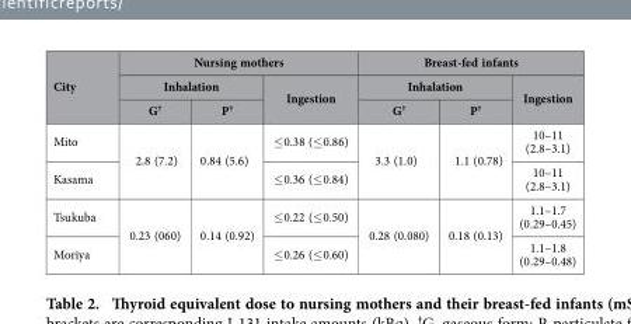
<table><thead><tr><td rowspan="3">City</td><td colspan="3">Nursing mothers</td><td colspan="3">Breast-fed infants</td></tr><tr><td colspan="2">Inhalation</td><td rowspan="2">Ingestion</td><td colspan="2">Inhalation</td><td rowspan="2">Ingestion</td></tr><tr><td>G†</td><td>P†</td><td>G†</td><td>P†</td></tr></thead><tbody><tr><td>Mito</td><td rowspan="2">2.8 (7.2)</td><td rowspan="2">0.84 (5.6)</td><td>≤ 0.38 (≤ 0.86)</td><td rowspan="2">3.3 (1.0)</td><td rowspan="2">1.1 (0.78)</td><td>10–11 (2.8–3.1)</td></tr><tr><td>Kasama</td><td>≤ 0.36 (≤ 0.84)</td><td>10–11 (2.8–3.1)</td></tr><tr><td>Tsukuba</td><td rowspan="2">0.23 (060)</td><td rowspan="2">0.14 (0.92)</td><td>≤ 0.22 (≤ 0.50)</td><td rowspan="2">0.28 (0.080)</td><td rowspan="2">0.18 (0.13)</td><td>1.1–1.7 (0.29–0.45)</td></tr><tr><td>Moriya</td><td>≤ 0.26 (≤ 0.60)</td><td>1.1–1.8 (0.29–0.48)</td></tr></tbody></table>